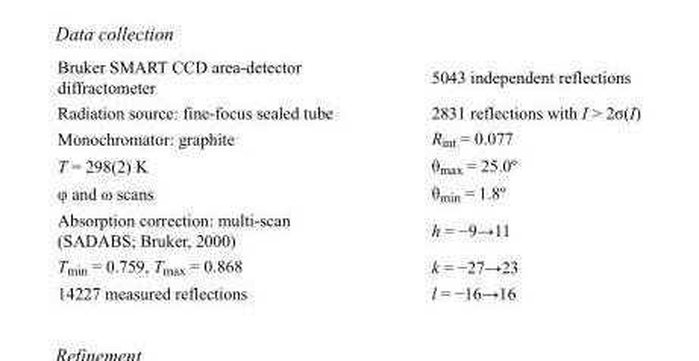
<table><tbody><tr><td>Bruker SMART CCD area-detector diffractometer</td><td>5043 independent reflections</td></tr><tr><td>Radiation source: fine-focus sealed tube</td><td>2831 reflections with I &gt; 2σ(I)</td></tr><tr><td>Monochromator: graphite</td><td>R<sub>int</sub> = 0.077</td></tr><tr><td>T = 298(2) K</td><td>θ<sub>max</sub> = 25.0º</td></tr><tr><td>φ and ω scans</td><td>θ<sub>min</sub> = 1.8º</td></tr><tr><td>Absorption correction: multi-scan (SADABS; Bruker, 2000)</td><td>h = −9→11</td></tr><tr><td>T<sub>min</sub> = 0.759, T<sub>max</sub> = 0.868</td><td>k = −27→23</td></tr><tr><td>14227 measured reflections</td><td>l = −16→16</td></tr></tbody></table>